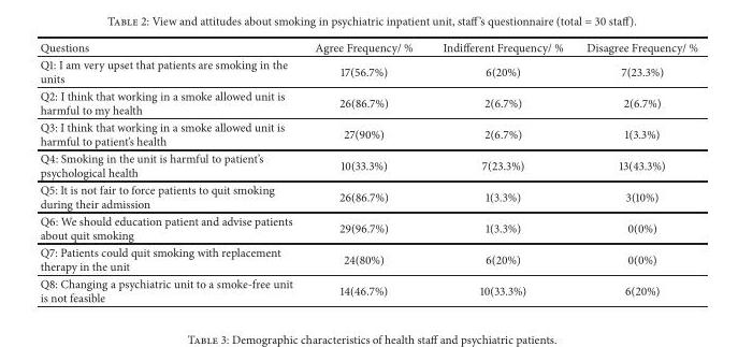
<table><thead><tr><td>Questions</td><td>Agree Frequency/ %</td><td>Indifferent Frequency/ %</td><td>Disagree Frequency/ %</td></tr></thead><tbody><tr><td>Q1: I am very upset that patients are smoking in the units</td><td>17(56.7%)</td><td>6(20%)</td><td>7(23.3%)</td></tr><tr><td>Q2: I think that working in a smoke allowed unit is harmful to my health</td><td>26(86.7%)</td><td>2(6.7%)</td><td>2(6.7%)</td></tr><tr><td>Q3: I think that working in a smoke allowed unit is harmful to patient’s health</td><td>27(90%)</td><td>2(6.7%)</td><td>1(3.3%)</td></tr><tr><td>Q4: Smoking in the unit is harmful to patient’s psychological health</td><td>10(33.3%)</td><td>7(23.3%)</td><td>13(43.3%)</td></tr><tr><td>Q5: It is not fair to force patients to quit smoking during their admission</td><td>26(86.7%)</td><td>1(3.3%)</td><td>3(10%)</td></tr><tr><td>Q6: We should education patient and advise patients about quit smoking</td><td>29(96.7%)</td><td>1(3.3%)</td><td>0(0%)</td></tr><tr><td>Q7: Patients could quit smoking with replacement therapy in the unit</td><td>24(80%)</td><td>6(20%)</td><td>0(0%)</td></tr><tr><td>Q8: Changing a psychiatric unit to a smoke-free unit is not feasible</td><td>14(46.7%)</td><td>10(33.3%)</td><td>6(20%)</td></tr></tbody></table>